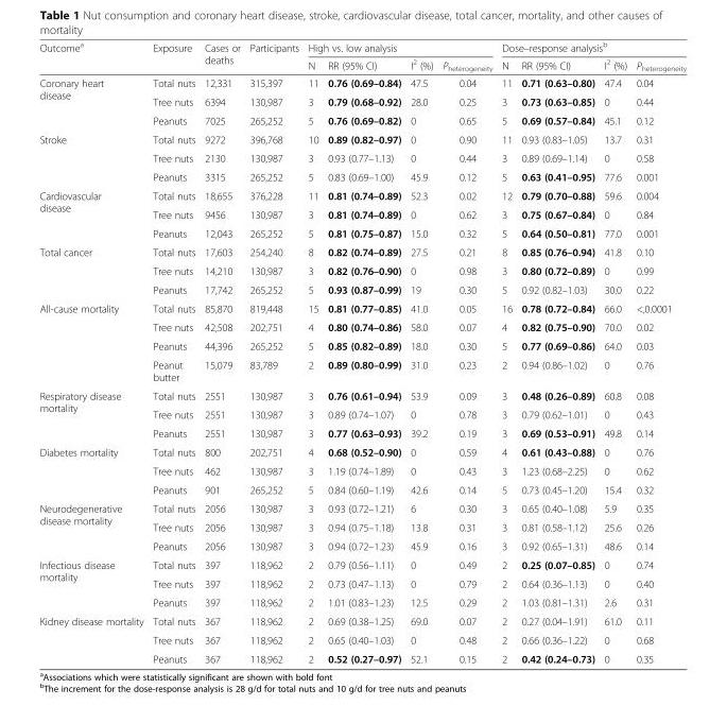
<table><thead><tr><td rowspan="2">Outcome<sup>a</sup></td><td rowspan="2">Exposure</td><td rowspan="2">Cases or deaths</td><td rowspan="2">Participants</td><td colspan="4">High vs. low analysis</td><td colspan="4">Dose–response analysis<sup>b</sup></td></tr><tr><td>N</td><td>RR (95% CI)</td><td>I<sup>2</sup> (%)</td><td>P<sub>heterogeneity</sub></td><td>N</td><td>RR (95% CI)</td><td>I<sup>2</sup> (%)</td><td>P<sub>heterogeneity</sub></td></tr></thead><tbody><tr><td rowspan="3">Coronary heart disease</td><td>Total nuts</td><td>12,331</td><td>315,397</td><td>11</td><td>0.76 (0.69–0.84)</td><td>47.5</td><td>0.04</td><td>11</td><td>0.71 (0.63–0.80)</td><td>47.4</td><td>0.04</td></tr><tr><td>Tree nuts</td><td>6394</td><td>130,987</td><td>3</td><td>0.79 (0.68–0.92)</td><td>28.0</td><td>0.25</td><td>3</td><td>0.73 (0.63–0.85)</td><td>0</td><td>0.44</td></tr><tr><td>Peanuts</td><td>7025</td><td>265,252</td><td>5</td><td>0.76 (0.69–0.82)</td><td>0</td><td>0.65</td><td>5</td><td>0.69 (0.57–0.84)</td><td>45.1</td><td>0.12</td></tr><tr><td rowspan="3">Stroke</td><td>Total nuts</td><td>9272</td><td>396,768</td><td>10</td><td>0.89 (0.82–0.97)</td><td>0</td><td>0.90</td><td>11</td><td>0.93 (0.83–1.05)</td><td>13.7</td><td>0.31</td></tr><tr><td>Tree nuts</td><td>2130</td><td>130,987</td><td>3</td><td>0.93 (0.77–1.13)</td><td>0</td><td>0.44</td><td>3</td><td>0.89 (0.69–1.14)</td><td>0</td><td>0.58</td></tr><tr><td>Peanuts</td><td>3315</td><td>265,252</td><td>5</td><td>0.83 (0.69–1.00)</td><td>45.9</td><td>0.12</td><td>5</td><td>0.63 (0.41–0.95)</td><td>77.6</td><td>0.001</td></tr><tr><td rowspan="3">Cardiovascular disease</td><td>Total nuts</td><td>18,655</td><td>376,228</td><td>11</td><td>0.81 (0.74–0.89)</td><td>52.3</td><td>0.02</td><td>12</td><td>0.79 (0.70–0.88)</td><td>59.6</td><td>0.004</td></tr><tr><td>Tree nuts</td><td>9456</td><td>130,987</td><td>3</td><td>0.81 (0.74–0.89)</td><td>0</td><td>0.62</td><td>3</td><td>0.75 (0.67–0.84)</td><td>0</td><td>0.84</td></tr><tr><td>Peanuts</td><td>12,043</td><td>265,252</td><td>5</td><td>0.81 (0.75–0.87)</td><td>15.0</td><td>0.32</td><td>5</td><td>0.64 (0.50–0.81)</td><td>77.0</td><td>0.001</td></tr><tr><td rowspan="3">Total cancer</td><td>Total nuts</td><td>17,603</td><td>254,240</td><td>8</td><td>0.82 (0.74–0.89)</td><td>27.5</td><td>0.21</td><td>8</td><td>0.85 (0.76–0.94)</td><td>41.8</td><td>0.10</td></tr><tr><td>Tree nuts</td><td>14,210</td><td>130,987</td><td>3</td><td>0.82 (0.76–0.90)</td><td>0</td><td>0.98</td><td>3</td><td>0.80 (0.72–0.89)</td><td>0</td><td>0.99</td></tr><tr><td>Peanuts</td><td>17,742</td><td>265,252</td><td>5</td><td>0.93 (0.87–0.99)</td><td>19</td><td>0.30</td><td>5</td><td>0.92 (0.82–1.03)</td><td>30.0</td><td>0.22</td></tr><tr><td rowspan="4">All-cause mortality</td><td>Total nuts</td><td>85,870</td><td>819,448</td><td>15</td><td>0.81 (0.77–0.85)</td><td>41.0</td><td>0.05</td><td>16</td><td>0.78 (0.72–0.84)</td><td>66.0</td><td>&lt;,0.0001</td></tr><tr><td>Tree nuts</td><td>42,508</td><td>202,751</td><td>4</td><td>0.80 (0.74–0.86)</td><td>58.0</td><td>0.07</td><td>4</td><td>0.82 (0.75–0.90)</td><td>70.0</td><td>0.02</td></tr><tr><td>Peanuts</td><td>44,396</td><td>265,252</td><td>5</td><td>0.85 (0.82–0.89)</td><td>18.0</td><td>0.30</td><td>5</td><td>0.77 (0.69–0.86)</td><td>64.0</td><td>0.03</td></tr><tr><td>Peanut butter</td><td>15,079</td><td>83,789</td><td>2</td><td>0.89 (0.80–0.99)</td><td>31.0</td><td>0.23</td><td>2</td><td>0.94 (0.86–1.02)</td><td>0</td><td>0.76</td></tr><tr><td rowspan="3">Respiratory disease mortality</td><td>Total nuts</td><td>2551</td><td>130,987</td><td>3</td><td>0.76 (0.61–0.94)</td><td>53.9</td><td>0.09</td><td>3</td><td>0.48 (0.26–0.89)</td><td>60.8</td><td>0.08</td></tr><tr><td>Tree nuts</td><td>2551</td><td>130,987</td><td>3</td><td>0.89 (0.74–1.07)</td><td>0</td><td>0.78</td><td>3</td><td>0.79 (0.62–1.01)</td><td>0</td><td>0.43</td></tr><tr><td>Peanuts</td><td>2551</td><td>130,987</td><td>3</td><td>0.77 (0.63–0.93)</td><td>39.2</td><td>0.19</td><td>3</td><td>0.69 (0.53–0.91)</td><td>49.8</td><td>0.14</td></tr><tr><td rowspan="3">Diabetes mortality</td><td>Total nuts</td><td>800</td><td>202,751</td><td>4</td><td>0.68 (0.52–0.90)</td><td>0</td><td>0.59</td><td>4</td><td>0.61 (0.43–0.88)</td><td>0</td><td>0.76</td></tr><tr><td>Tree nuts</td><td>462</td><td>130,987</td><td>3</td><td>1.19 (0.74–1.89)</td><td>0</td><td>0.43</td><td>3</td><td>1.23 (0.68–2.25)</td><td>0</td><td>0.62</td></tr><tr><td>Peanuts</td><td>901</td><td>265,252</td><td>5</td><td>0.84 (0.60–1.19)</td><td>42.6</td><td>0.14</td><td>5</td><td>0.73 (0.45–1.20)</td><td>15.4</td><td>0.32</td></tr><tr><td rowspan="3">Neurodegenerative disease mortality</td><td>Total nuts</td><td>2056</td><td>130,987</td><td>3</td><td>0.93 (0.72–1.21)</td><td>6</td><td>0.30</td><td>3</td><td>0.65 (0.40–1.08)</td><td>5.9</td><td>0.35</td></tr><tr><td>Tree nuts</td><td>2056</td><td>130,987</td><td>3</td><td>0.94 (0.75–1.18)</td><td>13.8</td><td>0.31</td><td>3</td><td>0.81 (0.58–1.12)</td><td>25.6</td><td>0.26</td></tr><tr><td>Peanuts</td><td>2056</td><td>130,987</td><td>3</td><td>0.94 (0.72–1.23)</td><td>45.9</td><td>0.16</td><td>3</td><td>0.92 (0.65–1.31)</td><td>48.6</td><td>0.14</td></tr><tr><td rowspan="3">Infectious disease mortality</td><td>Total nuts</td><td>397</td><td>118,962</td><td>2</td><td>0.79 (0.56–1.11)</td><td>0</td><td>0.49</td><td>2</td><td>0.25 (0.07–0.85)</td><td>0</td><td>0.74</td></tr><tr><td>Tree nuts</td><td>397</td><td>118,962</td><td>2</td><td>0.73 (0.47–1.13)</td><td>0</td><td>0.79</td><td>2</td><td>0.64 (0.36–1.13)</td><td>0</td><td>0.40</td></tr><tr><td>Peanuts</td><td>397</td><td>118,962</td><td>2</td><td>1.01 (0.83–1.23)</td><td>12.5</td><td>0.29</td><td>2</td><td>1.03 (0.81–1.31)</td><td>2.6</td><td>0.31</td></tr><tr><td rowspan="3">Kidney disease mortality</td><td>Total nuts</td><td>367</td><td>118,962</td><td>2</td><td>0.69 (0.38–1.25)</td><td>69.0</td><td>0.07</td><td>2</td><td>0.27 (0.04–1.91)</td><td>61.0</td><td>0.11</td></tr><tr><td>Tree nuts</td><td>367</td><td>118,962</td><td>2</td><td>0.65 (0.40–1.03)</td><td>0</td><td>0.48</td><td>2</td><td>0.66 (0.36–1.22)</td><td>0</td><td>0.68</td></tr><tr><td>Peanuts</td><td>367</td><td>118,962</td><td>2</td><td>0.52 (0.27–0.97)</td><td>52.1</td><td>0.15</td><td>2</td><td>0.42 (0.24–0.73)</td><td>0</td><td>0.35</td></tr></tbody></table>